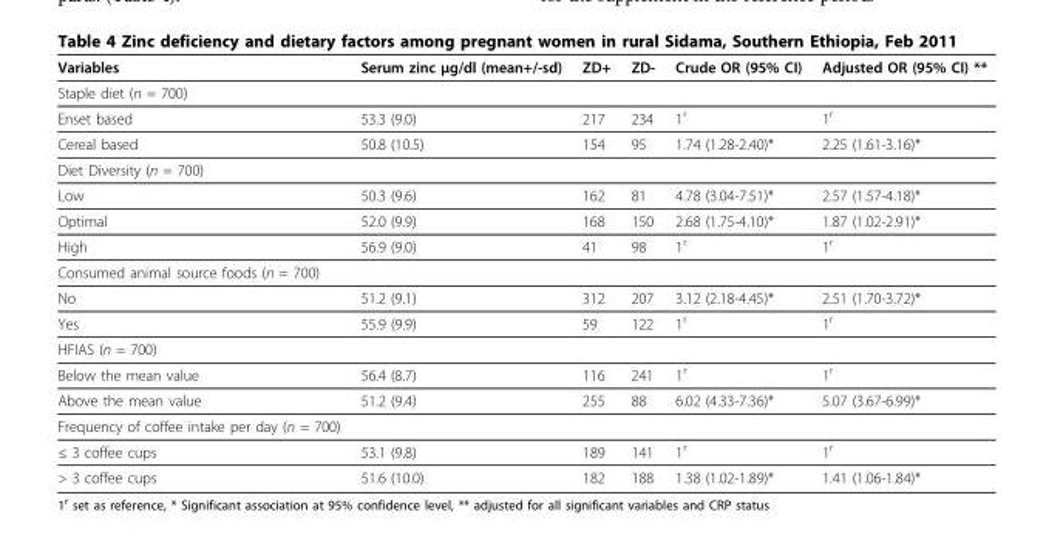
<table><thead><tr><td>Variables</td><td>Serum zinc μg/dl (mean+/-sd)</td><td>ZD+</td><td>ZD-</td><td>Crude OR (95% CI)</td><td>Adjusted OR (95% CI) **</td></tr></thead><tbody><tr><td colspan="6">Staple diet (n = 700)</td></tr><tr><td>Enset based</td><td>53.3 (9.0)</td><td>217</td><td>234</td><td>1<sup>r</sup></td><td>1<sup>r</sup></td></tr><tr><td>Cereal based</td><td>50.8 (10.5)</td><td>154</td><td>95</td><td>1.74 (1.28-2.40)*</td><td>2.25 (1.61-3.16)*</td></tr><tr><td colspan="6">Diet Diversity (n = 700)</td></tr><tr><td>Low</td><td>50.3 (9.6)</td><td>162</td><td>81</td><td>4.78 (3.04-7.51)*</td><td>2.57 (1.57-4.18)*</td></tr><tr><td>Optimal</td><td>52.0 (9.9)</td><td>168</td><td>150</td><td>2.68 (1.75-4.10)*</td><td>1.87 (1.02-2.91)*</td></tr><tr><td>High</td><td>56.9 (9.0)</td><td>41</td><td>98</td><td>1<sup>r</sup></td><td>1<sup>r</sup></td></tr><tr><td colspan="6">Consumed animal source foods (n = 700)</td></tr><tr><td>No</td><td>51.2 (9.1)</td><td>312</td><td>207</td><td>3.12 (2.18-4.45)*</td><td>2.51 (1.70-3.72)*</td></tr><tr><td>Yes</td><td>55.9 (9.9)</td><td>59</td><td>122</td><td>1<sup>r</sup></td><td>1<sup>r</sup></td></tr><tr><td colspan="6">HFIAS (n = 700)</td></tr><tr><td>Below the mean value</td><td>56.4 (8.7)</td><td>116</td><td>241</td><td>1<sup>r</sup></td><td>1<sup>r</sup></td></tr><tr><td>Above the mean value</td><td>51.2 (9.4)</td><td>255</td><td>88</td><td>6.02 (4.33-7.36)*</td><td>5.07 (3.67-6.99)*</td></tr><tr><td colspan="6">Frequency of coffee intake per day (n = 700)</td></tr><tr><td>≤ 3 coffee cups</td><td>53.1 (9.8)</td><td>189</td><td>141</td><td>1<sup>r</sup></td><td>1<sup>r</sup></td></tr><tr><td>&gt; 3 coffee cups</td><td>51.6 (10.0)</td><td>182</td><td>188</td><td>1.38 (1.02-1.89)*</td><td>1.41 (1.06-1.84)*</td></tr></tbody></table>